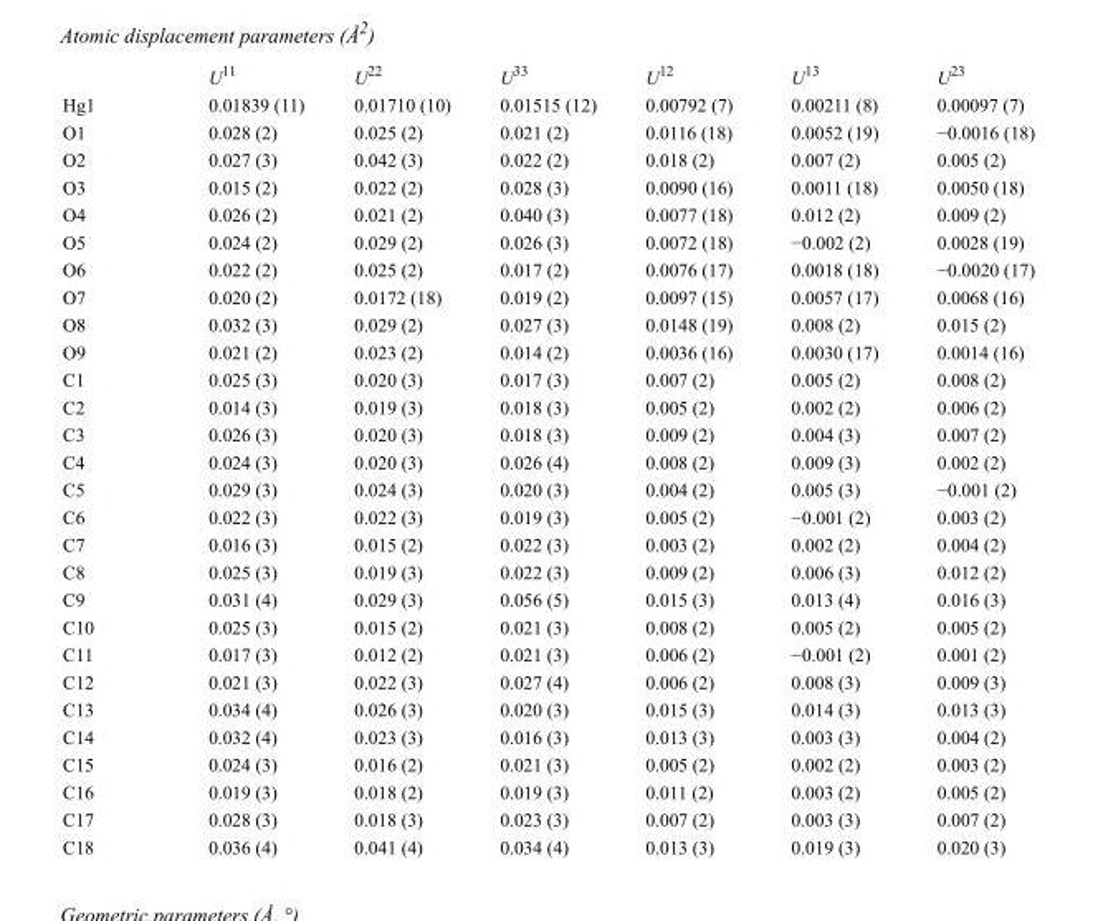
<table><thead><tr><td></td><td>U<sup>11</sup></td><td>U<sup>22</sup></td><td>U<sup>33</sup></td><td>U<sup>12</sup></td><td>U<sup>13</sup></td><td>U<sup>23</sup></td></tr></thead><tbody><tr><td>Hg1</td><td>0.01839 (11)</td><td>0.01710 (10)</td><td>0.01515 (12)</td><td>0.00792 (7)</td><td>0.00211 (8)</td><td>0.00097 (7)</td></tr><tr><td>O1</td><td>0.028 (2)</td><td>0.025 (2)</td><td>0.021 (2)</td><td>0.0116 (18)</td><td>0.0052 (19)</td><td>−0.0016 (18)</td></tr><tr><td>O2</td><td>0.027 (3)</td><td>0.042 (3)</td><td>0.022 (2)</td><td>0.018 (2)</td><td>0.007 (2)</td><td>0.005 (2)</td></tr><tr><td>O3</td><td>0.015 (2)</td><td>0.022 (2)</td><td>0.028 (3)</td><td>0.0090 (16)</td><td>0.0011 (18)</td><td>0.0050 (18)</td></tr><tr><td>O4</td><td>0.026 (2)</td><td>0.021 (2)</td><td>0.040 (3)</td><td>0.0077 (18)</td><td>0.012 (2)</td><td>0.009 (2)</td></tr><tr><td>O5</td><td>0.024 (2)</td><td>0.029 (2)</td><td>0.026 (3)</td><td>0.0072 (18)</td><td>−0.002 (2)</td><td>0.0028 (19)</td></tr><tr><td>O6</td><td>0.022 (2)</td><td>0.025 (2)</td><td>0.017 (2)</td><td>0.0076 (17)</td><td>0.0018 (18)</td><td>−0.0020 (17)</td></tr><tr><td>O7</td><td>0.020 (2)</td><td>0.0172 (18)</td><td>0.019 (2)</td><td>0.0097 (15)</td><td>0.0057 (17)</td><td>0.0068 (16)</td></tr><tr><td>O8</td><td>0.032 (3)</td><td>0.029 (2)</td><td>0.027 (3)</td><td>0.0148 (19)</td><td>0.008 (2)</td><td>0.015 (2)</td></tr><tr><td>O9</td><td>0.021 (2)</td><td>0.023 (2)</td><td>0.014 (2)</td><td>0.0036 (16)</td><td>0.0030 (17)</td><td>0.0014 (16)</td></tr><tr><td>C1</td><td>0.025 (3)</td><td>0.020 (3)</td><td>0.017 (3)</td><td>0.007 (2)</td><td>0.005 (2)</td><td>0.008 (2)</td></tr><tr><td>C2</td><td>0.014 (3)</td><td>0.019 (3)</td><td>0.018 (3)</td><td>0.005 (2)</td><td>0.002 (2)</td><td>0.006 (2)</td></tr><tr><td>C3</td><td>0.026 (3)</td><td>0.020 (3)</td><td>0.018 (3)</td><td>0.009 (2)</td><td>0.004 (3)</td><td>0.007 (2)</td></tr><tr><td>C4</td><td>0.024 (3)</td><td>0.020 (3)</td><td>0.026 (4)</td><td>0.008 (2)</td><td>0.009 (3)</td><td>0.002 (2)</td></tr><tr><td>C5</td><td>0.029 (3)</td><td>0.024 (3)</td><td>0.020 (3)</td><td>0.004 (2)</td><td>0.005 (3)</td><td>−0.001 (2)</td></tr><tr><td>C6</td><td>0.022 (3)</td><td>0.022 (3)</td><td>0.019 (3)</td><td>0.005 (2)</td><td>−0.001 (2)</td><td>0.003 (2)</td></tr><tr><td>C7</td><td>0.016 (3)</td><td>0.015 (2)</td><td>0.022 (3)</td><td>0.003 (2)</td><td>0.002 (2)</td><td>0.004 (2)</td></tr><tr><td>C8</td><td>0.025 (3)</td><td>0.019 (3)</td><td>0.022 (3)</td><td>0.009 (2)</td><td>0.006 (3)</td><td>0.012 (2)</td></tr><tr><td>C9</td><td>0.031 (4)</td><td>0.029 (3)</td><td>0.056 (5)</td><td>0.015 (3)</td><td>0.013 (4)</td><td>0.016 (3)</td></tr><tr><td>C10</td><td>0.025 (3)</td><td>0.015 (2)</td><td>0.021 (3)</td><td>0.008 (2)</td><td>0.005 (2)</td><td>0.005 (2)</td></tr><tr><td>C11</td><td>0.017 (3)</td><td>0.012 (2)</td><td>0.021 (3)</td><td>0.006 (2)</td><td>−0.001 (2)</td><td>0.001 (2)</td></tr><tr><td>C12</td><td>0.021 (3)</td><td>0.022 (3)</td><td>0.027 (4)</td><td>0.006 (2)</td><td>0.008 (3)</td><td>0.009 (3)</td></tr><tr><td>C13</td><td>0.034 (4)</td><td>0.026 (3)</td><td>0.020 (3)</td><td>0.015 (3)</td><td>0.014 (3)</td><td>0.013 (3)</td></tr><tr><td>C14</td><td>0.032 (4)</td><td>0.023 (3)</td><td>0.016 (3)</td><td>0.013 (3)</td><td>0.003 (3)</td><td>0.004 (2)</td></tr><tr><td>C15</td><td>0.024 (3)</td><td>0.016 (2)</td><td>0.021 (3)</td><td>0.005 (2)</td><td>0.002 (2)</td><td>0.003 (2)</td></tr><tr><td>C16</td><td>0.019 (3)</td><td>0.018 (2)</td><td>0.019 (3)</td><td>0.011 (2)</td><td>0.003 (2)</td><td>0.005 (2)</td></tr><tr><td>C17</td><td>0.028 (3)</td><td>0.018 (3)</td><td>0.023 (3)</td><td>0.007 (2)</td><td>0.003 (3)</td><td>0.007 (2)</td></tr><tr><td>C18</td><td>0.036 (4)</td><td>0.041 (4)</td><td>0.034 (4)</td><td>0.013 (3)</td><td>0.019 (3)</td><td>0.020 (3)</td></tr></tbody></table>